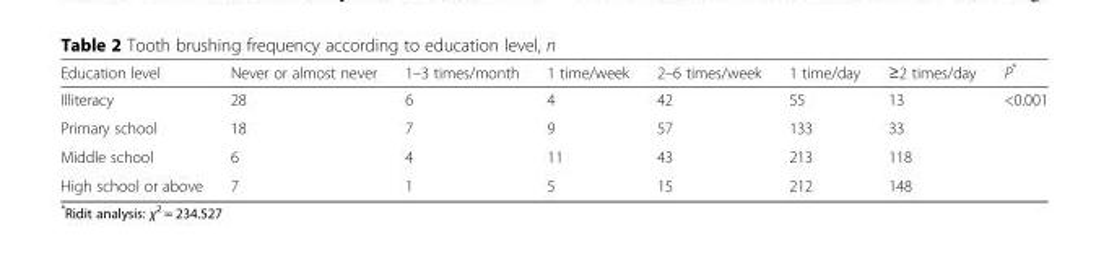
<table><thead><tr><td>Education level</td><td>Never or almost never</td><td>1–3 times/month</td><td>1 time/week</td><td>2–6 times/week</td><td>1 time/day</td><td>≥2 times/day</td><td>P*</td></tr></thead><tbody><tr><td>Illiteracy</td><td>28</td><td>6</td><td>4</td><td>42</td><td>55</td><td>13</td><td rowspan="4">&lt;0.001</td></tr><tr><td>Primary school</td><td>18</td><td>7</td><td>9</td><td>57</td><td>133</td><td>33</td></tr><tr><td>Middle school</td><td>6</td><td>4</td><td>11</td><td>43</td><td>213</td><td>118</td></tr><tr><td>High school or above</td><td>7</td><td>1</td><td>5</td><td>15</td><td>212</td><td>148</td></tr></tbody></table>